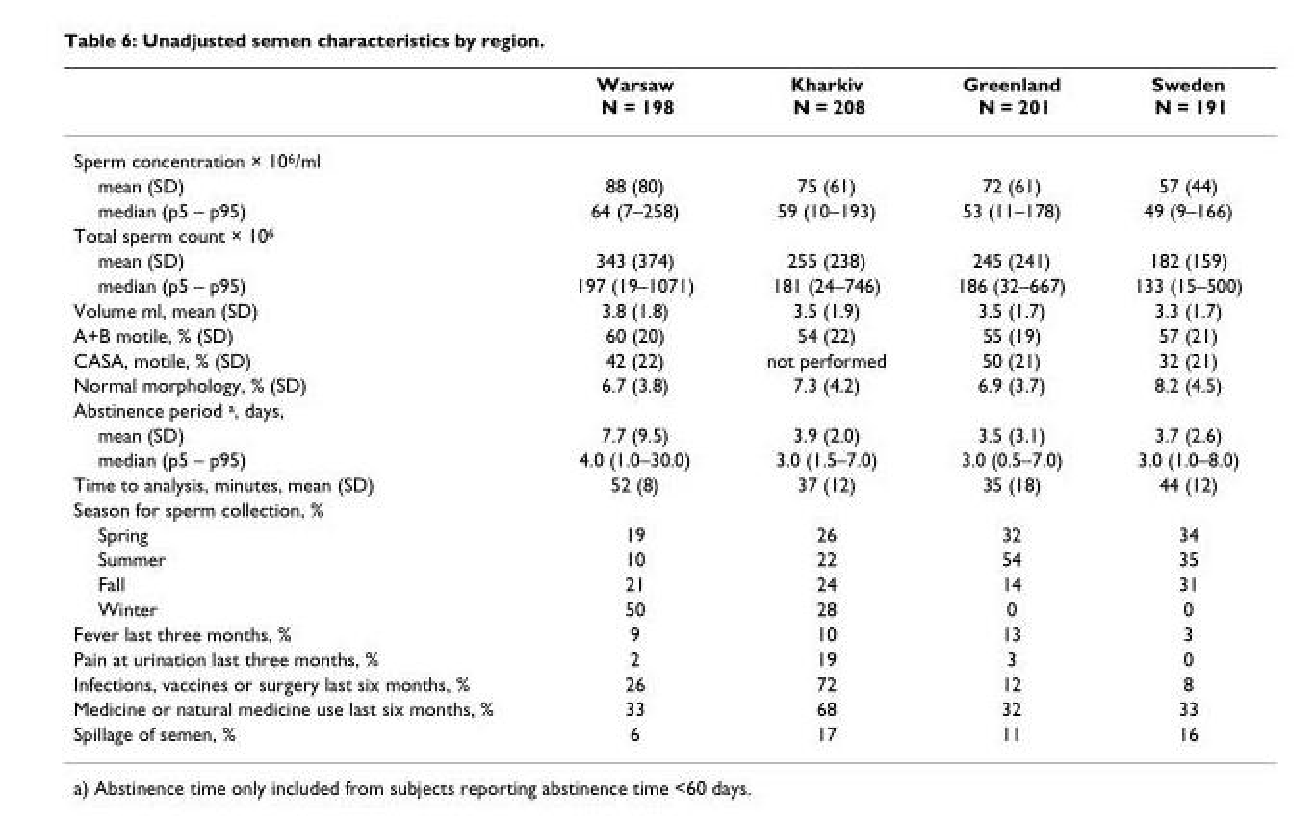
<table><thead><tr><td></td><td>Warsaw N = 198</td><td>Kharkiv N = 208</td><td>Greenland N = 201</td><td>Sweden N = 191</td></tr></thead><tbody><tr><td colspan="5">Sperm concentration × 10<sup>6</sup>/ml</td></tr><tr><td>mean (SD)</td><td>88 (80)</td><td>75 (61)</td><td>72 (61)</td><td>57 (44)</td></tr><tr><td>median (p5 – p95)</td><td>64 (7–258)</td><td>59 (10–193)</td><td>53 (11–178)</td><td>49 (9–166)</td></tr><tr><td colspan="5">Total sperm count × 10<sup>6</sup></td></tr><tr><td>mean (SD)</td><td>343 (374)</td><td>255 (238)</td><td>245 (241)</td><td>182 (159)</td></tr><tr><td>median (p5 – p95)</td><td>197 (19–1071)</td><td>181 (24–746)</td><td>186 (32–667)</td><td>133 (15–500)</td></tr><tr><td>Volume ml, mean (SD)</td><td>3.8 (1.8)</td><td>3.5 (1.9)</td><td>3.5 (1.7)</td><td>3.3 (1.7)</td></tr><tr><td>A+B motile, % (SD)</td><td>60 (20)</td><td>54 (22)</td><td>55 (19)</td><td>57 (21)</td></tr><tr><td>CASA, motile, % (SD)</td><td>42 (22)</td><td>not performed</td><td>50 (21)</td><td>32 (21)</td></tr><tr><td>Normal morphology, % (SD)</td><td>6.7 (3.8)</td><td>7.3 (4.2)</td><td>6.9 (3.7)</td><td>8.2 (4.5)</td></tr><tr><td colspan="5">Abstinence period <sup>a</sup>, days,</td></tr><tr><td>mean (SD)</td><td>7.7 (9.5)</td><td>3.9 (2.0)</td><td>3.5 (3.1)</td><td>3.7 (2.6)</td></tr><tr><td>median (p5 – p95)</td><td>4.0 (1.0–30.0)</td><td>3.0 (1.5–7.0)</td><td>3.0 (0.5–7.0)</td><td>3.0 (1.0–8.0)</td></tr><tr><td>Time to analysis, minutes, mean (SD)</td><td>52 (8)</td><td>37 (12)</td><td>35 (18)</td><td>44 (12)</td></tr><tr><td colspan="5">Season for sperm collection, %</td></tr><tr><td>Spring</td><td>19</td><td>26</td><td>32</td><td>34</td></tr><tr><td>Summer</td><td>10</td><td>22</td><td>54</td><td>35</td></tr><tr><td>Fall</td><td>21</td><td>24</td><td>14</td><td>31</td></tr><tr><td>Winter</td><td>50</td><td>28</td><td>0</td><td>0</td></tr><tr><td>Fever last three months, %</td><td>9</td><td>10</td><td>13</td><td>3</td></tr><tr><td>Pain at urination last three months, %</td><td>2</td><td>19</td><td>3</td><td>0</td></tr><tr><td>Infections, vaccines or surgery last six months, %</td><td>26</td><td>72</td><td>12</td><td>8</td></tr><tr><td>Medicine or natural medicine use last six months, %</td><td>33</td><td>68</td><td>32</td><td>33</td></tr><tr><td>Spillage of semen, %</td><td>6</td><td>17</td><td>11</td><td>16</td></tr></tbody></table>